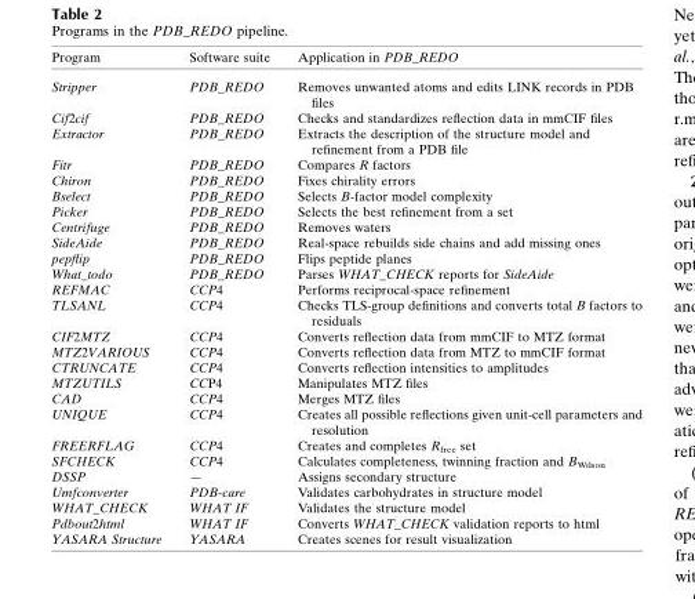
<table><thead><tr><td>Program</td><td>Software suite</td><td>Application in PDB_REDO</td></tr></thead><tbody><tr><td>Stripper</td><td>PDB_REDO</td><td>Removes unwanted atoms and edits LINK records in PDB files</td></tr><tr><td>Cif2cif</td><td>PDB_REDO</td><td>Checks and standardizes reflection data in mmCIF files</td></tr><tr><td>Extractor</td><td>PDB_REDO</td><td>Extracts the description of the structure model and refinement from a PDB file</td></tr><tr><td>Fitr</td><td>PDB_REDO</td><td>Compares R factors</td></tr><tr><td>Chiron</td><td>PDB_REDO</td><td>Fixes chirality errors</td></tr><tr><td>Bselect</td><td>PDB_REDO</td><td>Selects B-factor model complexity</td></tr><tr><td>Picker</td><td>PDB_REDO</td><td>Selects the best refinement from a set</td></tr><tr><td>Centrifuge</td><td>PDB_REDO</td><td>Removes waters</td></tr><tr><td>SideAide</td><td>PDB_REDO</td><td>Real-space rebuilds side chains and add missing ones</td></tr><tr><td>pepflip</td><td>PDB_REDO</td><td>Flips peptide planes</td></tr><tr><td>What_todo</td><td>PDB_REDO</td><td>Parses WHAT_CHECK reports for SideAide</td></tr><tr><td>REFMAC</td><td>CCP4</td><td>Performs reciprocal-space refinement</td></tr><tr><td>TLSANL</td><td>CCP4</td><td>Checks TLS-group definitions and converts total B factors to residuals</td></tr><tr><td>CIF2MTZ</td><td>CCP4</td><td>Converts reflection data from mmCIF to MTZ format</td></tr><tr><td>MTZ2VARIOUS</td><td>CCP4</td><td>Converts reflection data from MTZ to mmCIF format</td></tr><tr><td>CTRUNCATE</td><td>CCP4</td><td>Converts reflection intensities to amplitudes</td></tr><tr><td>MTZUTILS</td><td>CCP4</td><td>Manipulates MTZ files</td></tr><tr><td>CAD</td><td>CCP4</td><td>Merges MTZ files</td></tr><tr><td>UNIQUE</td><td>CCP4</td><td>Creates all possible reflections given unit-cell parameters and resolution</td></tr><tr><td>FREERFLAG</td><td>CCP4</td><td>Creates and completes R<sub>free</sub> set</td></tr><tr><td>SFCHECK</td><td>CCP4</td><td>Calculates completeness, twinning fraction and B<sub>Wilson</sub></td></tr><tr><td>DSSP</td><td>—</td><td>Assigns secondary structure</td></tr><tr><td>Umfconverter</td><td>PDB-care</td><td>Validates carbohydrates in structure model</td></tr><tr><td>WHAT_CHECK</td><td>WHAT IF</td><td>Validates the structure model</td></tr><tr><td>Pdbout2html</td><td>WHAT IF</td><td>Converts WHAT_CHECK validation reports to html</td></tr><tr><td>YASARA Structure</td><td>YASARA</td><td>Creates scenes for result visualization</td></tr></tbody></table>